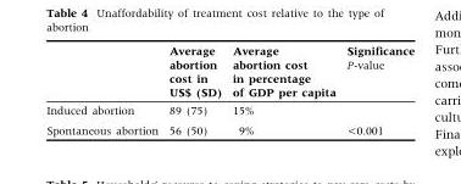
<table><thead><tr><td rowspan="2"></td><td rowspan="2">Average abortion cost in US$ (SD)</td><td rowspan="2">Average abortion cost in percentage of GDP per capita</td><td rowspan="2">Significance P-value</td></tr><tr></tr></thead><tbody><tr><td>Induced abortion</td><td>89 (75)</td><td>15%</td><td></td></tr><tr><td>Spontaneous abortion</td><td>56 (50)</td><td>9%</td><td>&lt;0.001</td></tr></tbody></table>